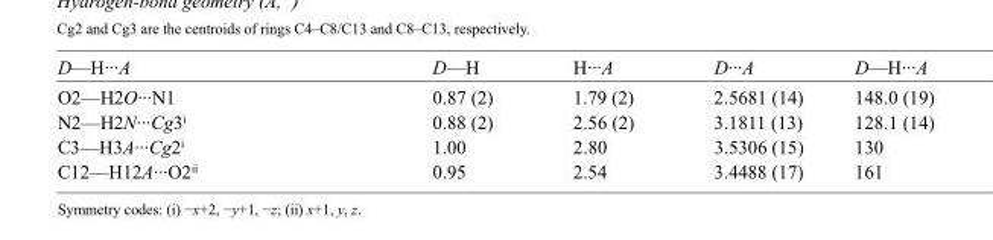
<table><tbody><tr><td>D—H···A</td><td>D—H</td><td>H···A</td><td>D···A</td><td>D—H···A</td></tr><tr><td>O2—H2O···N1</td><td>0.87 (2)</td><td>1.79 (2)</td><td>2.5681 (14)</td><td>148.0 (19)</td></tr><tr><td>N2—H2N···Cg3<sup>i</sup></td><td>0.88 (2)</td><td>2.56 (2)</td><td>3.1811 (13)</td><td>128.1 (14)</td></tr><tr><td>C3—H3A···Cg2<sup>i</sup></td><td>1.00</td><td>2.80</td><td>3.5306 (15)</td><td>130</td></tr><tr><td>C12—H12A···O2<sup>ii</sup></td><td>0.95</td><td>2.54</td><td>3.4488 (17)</td><td>161</td></tr></tbody></table>